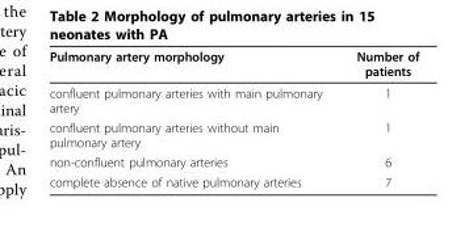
<table><thead><tr><td>Pulmonary artery morphology</td><td>Number of patients</td></tr></thead><tbody><tr><td>confluent pulmonary arteries with main pulmonary artery</td><td>1</td></tr><tr><td>confluent pulmonary arteries without main pulmonary artery</td><td>1</td></tr><tr><td>non-confluent pulmonary arteries</td><td>6</td></tr><tr><td>complete absence of native pulmonary arteries</td><td>7</td></tr></tbody></table>